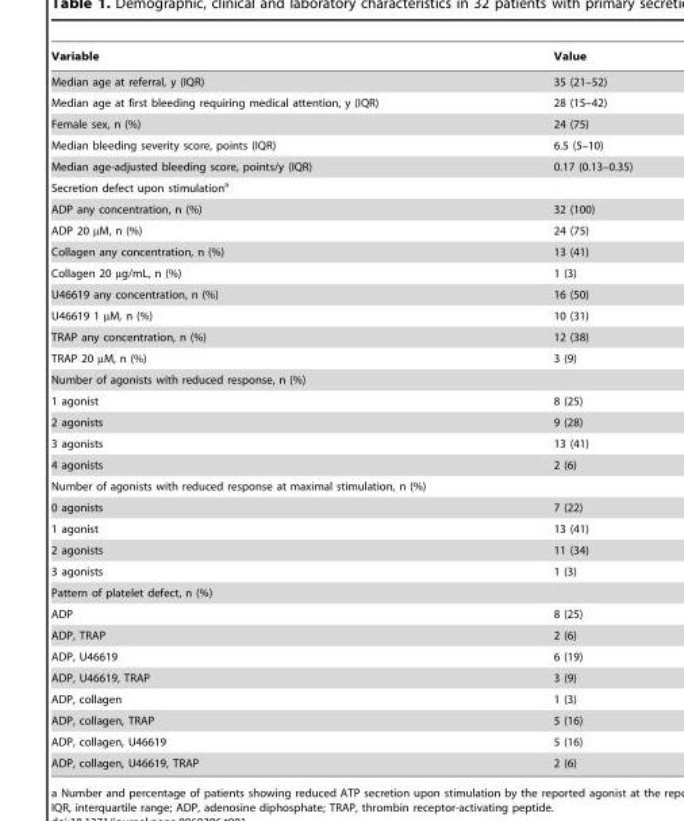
<table><thead><tr><td>Variable</td><td>Value</td></tr></thead><tbody><tr><td>Median age at referral, y (IQR)</td><td>35 (21–52)</td></tr><tr><td>Median age at first bleeding requiring medical attention, y (IQR)</td><td>28 (15–42)</td></tr><tr><td>Female sex, n (%)</td><td>24 (75)</td></tr><tr><td>Median bleeding severity score, points (IQR)</td><td>6.5 (5–10)</td></tr><tr><td>Median age-adjusted bleeding score, points/y (IQR)</td><td>0.17 (0.13–0.35)</td></tr><tr><td colspan="2">Secretion defect upon stimulation<sup>a</sup></td></tr><tr><td>ADP any concentration, n (%)</td><td>32 (100)</td></tr><tr><td>ADP 20 µM, n (%)</td><td>24 (75)</td></tr><tr><td>Collagen any concentration, n (%)</td><td>13 (41)</td></tr><tr><td>Collagen 20 µg/mL, n (%)</td><td>1 (3)</td></tr><tr><td>U46619 any concentration, n (%)</td><td>16 (50)</td></tr><tr><td>U46619 1 µM, n (%)</td><td>10 (31)</td></tr><tr><td>TRAP any concentration, n (%)</td><td>12 (38)</td></tr><tr><td>TRAP 20 µM, n (%)</td><td>3 (9)</td></tr><tr><td colspan="2">Number of agonists with reduced response, n (%)</td></tr><tr><td>1 agonist</td><td>8 (25)</td></tr><tr><td>2 agonists</td><td>9 (28)</td></tr><tr><td>3 agonists</td><td>13 (41)</td></tr><tr><td>4 agonists</td><td>2 (6)</td></tr><tr><td colspan="2">Number of agonists with reduced response at maximal stimulation, n (%)</td></tr><tr><td>0 agonists</td><td>7 (22)</td></tr><tr><td>1 agonist</td><td>13 (41)</td></tr><tr><td>2 agonists</td><td>11 (34)</td></tr><tr><td>3 agonists</td><td>1 (3)</td></tr><tr><td colspan="2">Pattern of platelet defect, n (%)</td></tr><tr><td>ADP</td><td>8 (25)</td></tr><tr><td>ADP, TRAP</td><td>2 (6)</td></tr><tr><td>ADP, U46619</td><td>6 (19)</td></tr><tr><td>ADP, U46619, TRAP</td><td>3 (9)</td></tr><tr><td>ADP, collagen</td><td>1 (3)</td></tr><tr><td>ADP, collagen, TRAP</td><td>5 (16)</td></tr><tr><td>ADP, collagen, U46619</td><td>5 (16)</td></tr><tr><td>ADP, collagen, U46619, TRAP</td><td>2 (6)</td></tr></tbody></table>